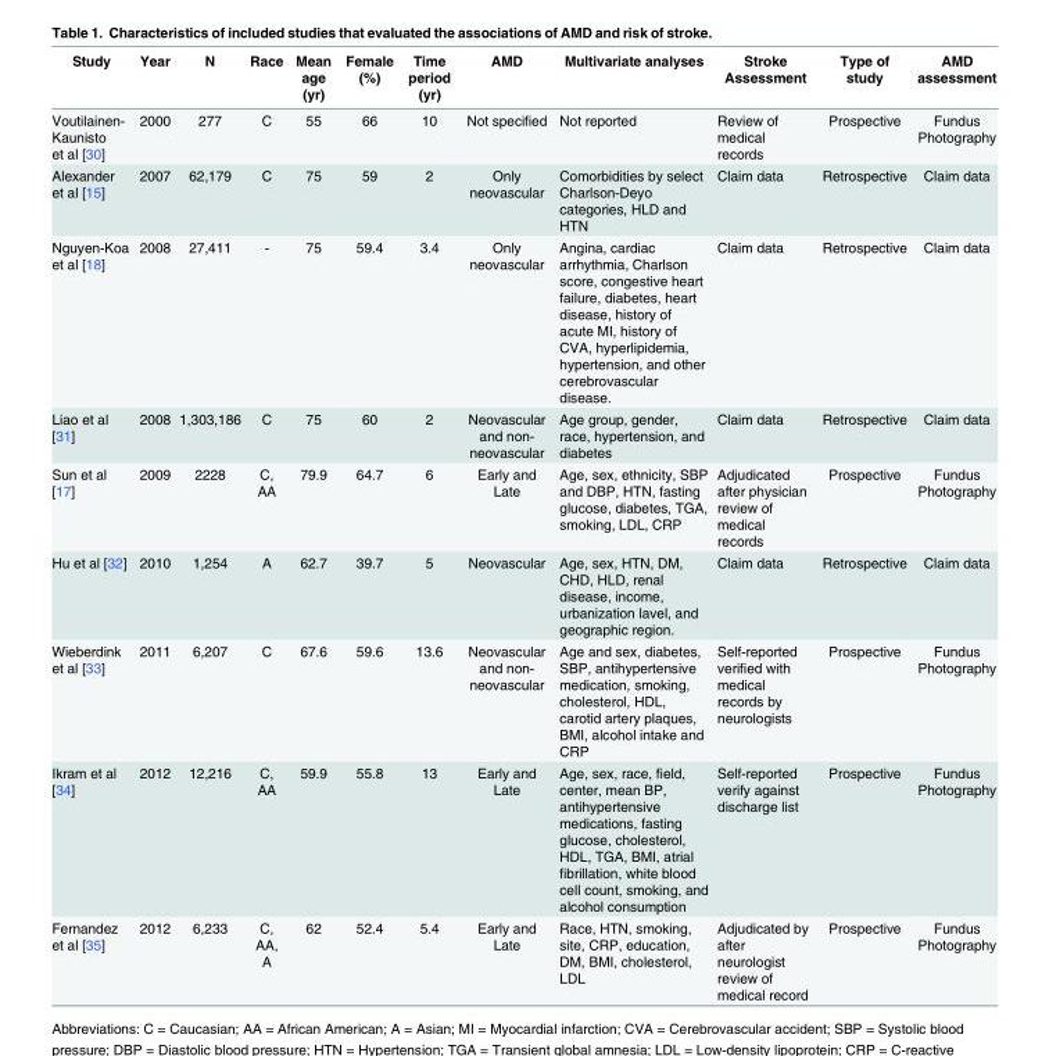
<table><thead><tr><td>Study</td><td>Year</td><td>N</td><td>Race</td><td>Mean age (yr)</td><td>Female (%)</td><td>Time period (yr)</td><td>AMD</td><td>Multivariate analyses</td><td>Stroke Assessment</td><td>Type of study</td><td>AMD assessment</td></tr></thead><tbody><tr><td>Voutilainen- Kaunisto et al [30]</td><td>2000</td><td>277</td><td>C</td><td>55</td><td>66</td><td>10</td><td>Not specified</td><td>Not reported</td><td>Review of medical records</td><td>Prospective</td><td>Fundus Photography</td></tr><tr><td>Alexander et al [15]</td><td>2007</td><td>62,179</td><td>C</td><td>75</td><td>59</td><td>2</td><td>Only neovascular</td><td>Comorbidities by select Charlson-Deyo categories, HLD and HTN</td><td>Claim data</td><td>Retrospective</td><td>Claim data</td></tr><tr><td>Nguyen-Koa et al [18]</td><td>2008</td><td>27,411</td><td>-</td><td>75</td><td>59.4</td><td>3.4</td><td>Only neovascular</td><td>Angina, cardiac arrhythmia, Charlson score, congestive heart failure, diabetes, heart disease, history of acute MI, history of CVA, hyperlipidemia, hypertension, and other cerebrovascular disease.</td><td>Claim data</td><td>Retrospective</td><td>Claim data</td></tr><tr><td>Liao et al [31]</td><td>2008</td><td>1,303,186</td><td>C</td><td>75</td><td>60</td><td>2</td><td>Neovascular and non- neovascular</td><td>Age group, gender, race, hypertension, and diabetes</td><td>Claim data</td><td>Retrospective</td><td>Claim data</td></tr><tr><td>Sun et al [17]</td><td>2009</td><td>2228</td><td>C, AA</td><td>79.9</td><td>64.7</td><td>6</td><td>Early and Late</td><td>Age, sex, ethnicity, SBP and DBP, HTN, fasting glucose, diabetes, TGA, smoking, LDL, CRP</td><td>Adjudicated after physician review of medical records</td><td>Prospective</td><td>Fundus Photography</td></tr><tr><td>Hu et al [32]</td><td>2010</td><td>1,254</td><td>A</td><td>62.7</td><td>39.7</td><td>5</td><td>Neovascular</td><td>Age, sex, HTN, DM, CHD, HLD, renal disease, income, urbanization lavel, and geographic region.</td><td>Claim data</td><td>Retrospective</td><td>Claim data</td></tr><tr><td>Wieberdink et al [33]</td><td>2011</td><td>6,207</td><td>C</td><td>67.6</td><td>59.6</td><td>13.6</td><td>Neovascular and non- neovascular</td><td>Age and sex, diabetes, SBP, antihypertensive medication, smoking, cholesterol, HDL, carotid artery plaques, BMI, alcohol intake and CRP</td><td>Self-reported verified with medical records by neurologists</td><td>Prospective</td><td>Fundus Photography</td></tr><tr><td>Ikram et al [34]</td><td>2012</td><td>12,216</td><td>C, AA</td><td>59.9</td><td>55.8</td><td>13</td><td>Early and Late</td><td>Age, sex, race, field, center, mean BP, antihypertensive medications, fasting glucose, cholesterol, HDL, TGA, BMI, atrial fibrillation, white blood cell count, smoking, and alcohol consumption</td><td>Self-reported verify against discharge list</td><td>Prospective</td><td>Fundus Photography</td></tr><tr><td>Fernandez et al [35]</td><td>2012</td><td>6,233</td><td>C, AA, A</td><td>62</td><td>52.4</td><td>5.4</td><td>Early and Late</td><td>Race, HTN, smoking, site, CRP, education, DM, BMI, cholesterol, LDL</td><td>Adjudicated by after neurologist review of medical record</td><td>Prospective</td><td>Fundus Photography</td></tr></tbody></table>